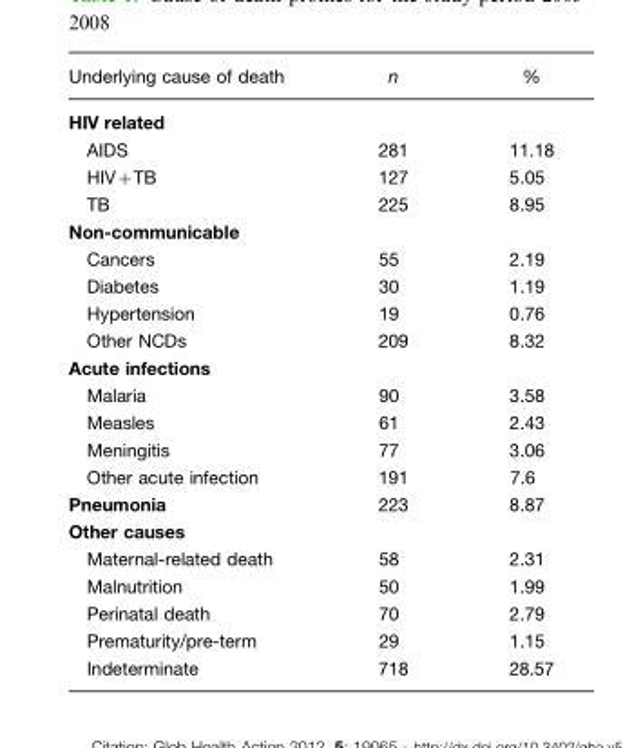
<table><thead><tr><td>Underlying cause of death</td><td>n</td><td>%</td></tr></thead><tbody><tr><td colspan="3">HIV related</td></tr><tr><td>AIDS</td><td>281</td><td>11.18</td></tr><tr><td>HIV+TB</td><td>127</td><td>5.05</td></tr><tr><td>TB</td><td>225</td><td>8.95</td></tr><tr><td colspan="3">Non-communicable</td></tr><tr><td>Cancers</td><td>55</td><td>2.19</td></tr><tr><td>Diabetes</td><td>30</td><td>1.19</td></tr><tr><td>Hypertension</td><td>19</td><td>0.76</td></tr><tr><td>Other NCDs</td><td>209</td><td>8.32</td></tr><tr><td colspan="3">Acute infections</td></tr><tr><td>Malaria</td><td>90</td><td>3.58</td></tr><tr><td>Measles</td><td>61</td><td>2.43</td></tr><tr><td>Meningitis</td><td>77</td><td>3.06</td></tr><tr><td>Other acute infection</td><td>191</td><td>7.6</td></tr><tr><td>Pneumonia</td><td>223</td><td>8.87</td></tr><tr><td colspan="3">Other causes</td></tr><tr><td>Maternal-related death</td><td>58</td><td>2.31</td></tr><tr><td>Malnutrition</td><td>50</td><td>1.99</td></tr><tr><td>Perinatal death</td><td>70</td><td>2.79</td></tr><tr><td>Prematurity/pre-term</td><td>29</td><td>1.15</td></tr><tr><td>Indeterminate</td><td>718</td><td>28.57</td></tr></tbody></table>